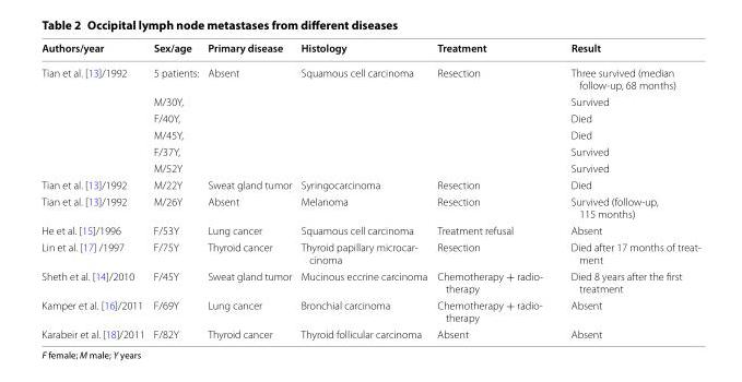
<table><thead><tr><td>Authors/year</td><td>Sex/age</td><td>Primary disease</td><td>Histology</td><td>Treatment</td><td>Result</td></tr></thead><tbody><tr><td rowspan="6">Tian et al. [13]/1992</td><td>5 patients:</td><td rowspan="6">Absent</td><td rowspan="6">Squamous cell carcinoma</td><td rowspan="6">Resection</td><td>Three survived (median follow‑up, 68 months)</td></tr><tr><td>M/30Y,</td><td>Survived</td></tr><tr><td>F/40Y,</td><td>Died</td></tr><tr><td>M/45Y,</td><td>Died</td></tr><tr><td>F/37Y,</td><td>Survived</td></tr><tr><td>M/52Y</td><td>Survived</td></tr><tr><td>Tian et al. [13]/1992</td><td>M/22Y</td><td>Sweat gland tumor</td><td>Syringocarcinoma</td><td>Resection</td><td>Died</td></tr><tr><td>Tian et al. [13]/1992</td><td>M/26Y</td><td>Absent</td><td>Melanoma</td><td>Resection</td><td>Survived (follow‑up, 115 months)</td></tr><tr><td>He et al. [15]/1996</td><td>F/53Y</td><td>Lung cancer</td><td>Squamous cell carcinoma</td><td>Treatment refusal</td><td>Absent</td></tr><tr><td>Lin et al. [17] /1997</td><td>F/75Y</td><td>Thyroid cancer</td><td>Thyroid papillary microcar‑ cinoma</td><td>Resection</td><td>Died after 17 months of treat‑ ment</td></tr><tr><td>Sheth et al. [14]/2010</td><td>F/45Y</td><td>Sweat gland tumor</td><td>Mucinous eccrine carcinoma</td><td>Chemotherapy + radio‑ therapy</td><td>Died 8 years after the first treatment</td></tr><tr><td>Kamper et al. [16]/2011</td><td>F/69Y</td><td>Lung cancer</td><td>Bronchial carcinoma</td><td>Chemotherapy + radio‑ therapy</td><td>Absent</td></tr><tr><td>Karabeir et al. [18]/2011</td><td>F/82Y</td><td>Thyroid cancer</td><td>Thyroid follicular carcinoma</td><td>Absent</td><td>Absent</td></tr></tbody></table>